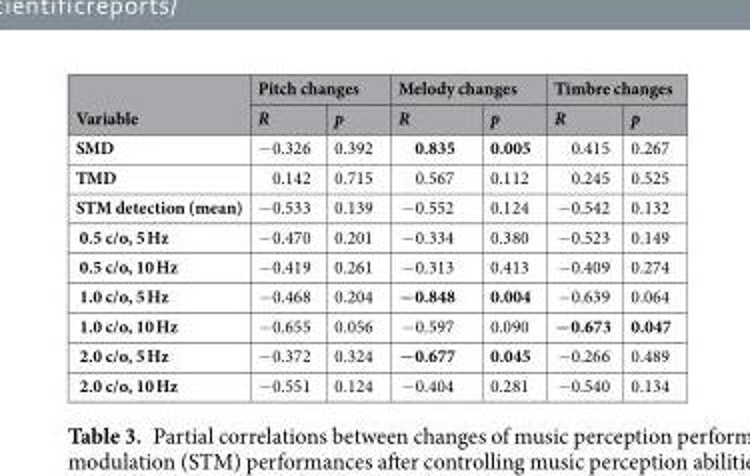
<table><thead><tr><td rowspan="2">Variable</td><td colspan="2">Pitch changes</td><td colspan="2">Melody changes</td><td colspan="2">Timbre changes</td></tr><tr><td>R</td><td>p</td><td>R</td><td>p</td><td>R</td><td>p</td></tr></thead><tbody><tr><td>SMD</td><td>−0.326</td><td>0.392</td><td>0.835</td><td>0.005</td><td>0.415</td><td>0.267</td></tr><tr><td>TMD</td><td>0.142</td><td>0.715</td><td>0.567</td><td>0.112</td><td>0.245</td><td>0.525</td></tr><tr><td>STM detection (mean)</td><td>−0.533</td><td>0.139</td><td>−0.552</td><td>0.124</td><td>−0.542</td><td>0.132</td></tr><tr><td>0.5 c/o, 5 Hz</td><td>−0.470</td><td>0.201</td><td>−0.334</td><td>0.380</td><td>−0.523</td><td>0.149</td></tr><tr><td>0.5 c/o, 10 Hz</td><td>−0.419</td><td>0.261</td><td>−0.313</td><td>0.413</td><td>−0.409</td><td>0.274</td></tr><tr><td>1.0 c/o, 5 Hz</td><td>−0.468</td><td>0.204</td><td>−0.848</td><td>0.004</td><td>−0.639</td><td>0.064</td></tr><tr><td>1.0 c/o, 10 Hz</td><td>−0.655</td><td>0.056</td><td>−0.597</td><td>0.090</td><td>−0.673</td><td>0.047</td></tr><tr><td>2.0 c/o, 5 Hz</td><td>−0.372</td><td>0.324</td><td>−0.677</td><td>0.045</td><td>−0.266</td><td>0.489</td></tr><tr><td>2.0 c/o, 10 Hz</td><td>−0.551</td><td>0.124</td><td>−0.404</td><td>0.281</td><td>−0.540</td><td>0.134</td></tr></tbody></table>